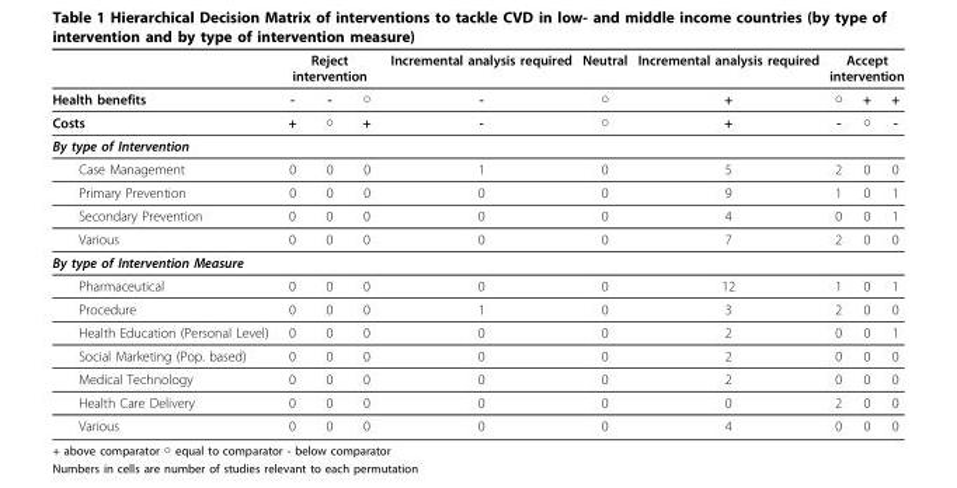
<table><thead><tr><td rowspan="2">Health benefits</td><td colspan="3">Reject intervention</td><td rowspan="2">Incremental analysis required -</td><td rowspan="2">Neutral ○</td><td rowspan="2">Incremental analysis required +</td><td colspan="3">Accept intervention</td></tr><tr><td>-</td><td>-</td><td>○</td><td>○</td><td>+</td><td>+</td></tr></thead><tbody><tr><td>Costs</td><td>+</td><td>○</td><td>+</td><td>-</td><td>○</td><td>+</td><td>-</td><td>○</td><td>-</td></tr><tr><td colspan="10">By type of Intervention</td></tr><tr><td>Case Management</td><td>0</td><td>0</td><td>0</td><td>1</td><td>0</td><td>5</td><td>2</td><td>0</td><td>0</td></tr><tr><td>Primary Prevention</td><td>0</td><td>0</td><td>0</td><td>0</td><td>0</td><td>9</td><td>1</td><td>0</td><td>1</td></tr><tr><td>Secondary Prevention</td><td>0</td><td>0</td><td>0</td><td>0</td><td>0</td><td>4</td><td>0</td><td>0</td><td>1</td></tr><tr><td>Various</td><td>0</td><td>0</td><td>0</td><td>0</td><td>0</td><td>7</td><td>2</td><td>0</td><td>0</td></tr><tr><td colspan="10">By type of Intervention Measure</td></tr><tr><td>Pharmaceutical</td><td>0</td><td>0</td><td>0</td><td>0</td><td>0</td><td>12</td><td>1</td><td>0</td><td>1</td></tr><tr><td>Procedure</td><td>0</td><td>0</td><td>0</td><td>1</td><td>0</td><td>3</td><td>2</td><td>0</td><td>0</td></tr><tr><td>Health Education (Personal Level)</td><td>0</td><td>0</td><td>0</td><td>0</td><td>0</td><td>2</td><td>0</td><td>0</td><td>1</td></tr><tr><td>Social Marketing (Pop. based)</td><td>0</td><td>0</td><td>0</td><td>0</td><td>0</td><td>2</td><td>0</td><td>0</td><td>0</td></tr><tr><td>Medical Technology</td><td>0</td><td>0</td><td>0</td><td>0</td><td>0</td><td>2</td><td>0</td><td>0</td><td>0</td></tr><tr><td>Health Care Delivery</td><td>0</td><td>0</td><td>0</td><td>0</td><td>0</td><td>0</td><td>2</td><td>0</td><td>0</td></tr><tr><td>Various</td><td>0</td><td>0</td><td>0</td><td>0</td><td>0</td><td>4</td><td>0</td><td>0</td><td>0</td></tr></tbody></table>